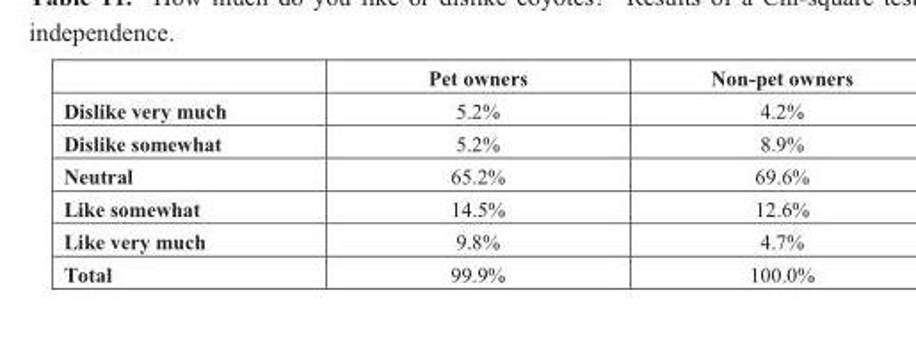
<table><thead><tr><td></td><td>Pet owners</td><td>Non-pet owners</td></tr></thead><tbody><tr><td>Dislike very much</td><td>5.2%</td><td>4.2%</td></tr><tr><td>Dislike somewhat</td><td>5.2%</td><td>8.9%</td></tr><tr><td>Neutral</td><td>65.2%</td><td>69.6%</td></tr><tr><td>Like somewhat</td><td>14.5%</td><td>12.6%</td></tr><tr><td>Like very much</td><td>9.8%</td><td>4.7%</td></tr><tr><td>Total</td><td>99.9%</td><td>100.0%</td></tr></tbody></table>